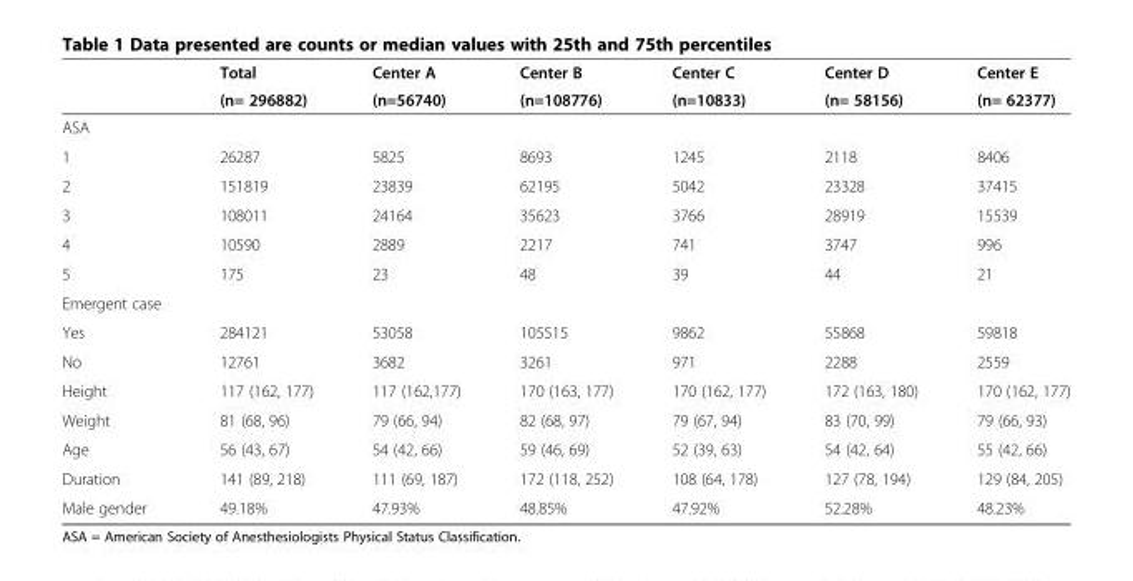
<table><thead><tr><td rowspan="2"></td><td rowspan="2">Total (n= 296882)</td><td rowspan="2">Center A (n=56740)</td><td rowspan="2">Center B (n=108776)</td><td rowspan="2">Center C (n=10833)</td><td rowspan="2">Center D (n= 58156)</td><td rowspan="2">Center E (n= 62377)</td></tr><tr></tr></thead><tbody><tr><td colspan="7">ASA</td></tr><tr><td>1</td><td>26287</td><td>5825</td><td>8693</td><td>1245</td><td>2118</td><td>8406</td></tr><tr><td>2</td><td>151819</td><td>23839</td><td>62195</td><td>5042</td><td>23328</td><td>37415</td></tr><tr><td>3</td><td>108011</td><td>24164</td><td>35623</td><td>3766</td><td>28919</td><td>15539</td></tr><tr><td>4</td><td>10590</td><td>2889</td><td>2217</td><td>741</td><td>3747</td><td>996</td></tr><tr><td>5</td><td>175</td><td>23</td><td>48</td><td>39</td><td>44</td><td>21</td></tr><tr><td colspan="7">Emergent case</td></tr><tr><td>Yes</td><td>284121</td><td>53058</td><td>105515</td><td>9862</td><td>55868</td><td>59818</td></tr><tr><td>No</td><td>12761</td><td>3682</td><td>3261</td><td>971</td><td>2288</td><td>2559</td></tr><tr><td>Height</td><td>117 (162, 177)</td><td>117 (162,177)</td><td>170 (163, 177)</td><td>170 (162, 177)</td><td>172 (163, 180)</td><td>170 (162, 177)</td></tr><tr><td>Weight</td><td>81 (68, 96)</td><td>79 (66, 94)</td><td>82 (68, 97)</td><td>79 (67, 94)</td><td>83 (70, 99)</td><td>79 (66, 93)</td></tr><tr><td>Age</td><td>56 (43, 67)</td><td>54 (42, 66)</td><td>59 (46, 69)</td><td>52 (39, 63)</td><td>54 (42, 64)</td><td>55 (42, 66)</td></tr><tr><td>Duration</td><td>141 (89, 218)</td><td>111 (69, 187)</td><td>172 (118, 252)</td><td>108 (64, 178)</td><td>127 (78, 194)</td><td>129 (84, 205)</td></tr><tr><td>Male gender</td><td>49.18%</td><td>47.93%</td><td>48.85%</td><td>47.92%</td><td>52.28%</td><td>48.23%</td></tr></tbody></table>